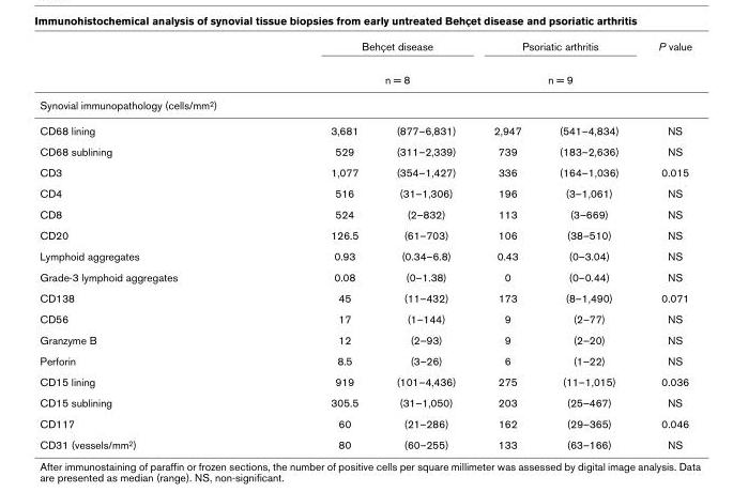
<table><thead><tr><td rowspan="3">Synovial immunopathology (cells/mm2)</td><td rowspan="2" colspan="2">Behçet disease n = 8</td><td rowspan="2" colspan="2">Psoriatic arthritis n = 9</td><td rowspan="3">P value</td></tr><tr></tr><tr><td></td><td></td><td></td><td></td></tr></thead><tbody><tr><td>CD68 lining</td><td>3,681</td><td>(877–6,831)</td><td>2,947</td><td>(541–4,834)</td><td>NS</td></tr><tr><td>CD68 sublining</td><td>529</td><td>(311–2,339)</td><td>739</td><td>(183–2,636)</td><td>NS</td></tr><tr><td>CD3</td><td>1,077</td><td>(354–1,427)</td><td>336</td><td>(164–1,036)</td><td>0.015</td></tr><tr><td>CD4</td><td>516</td><td>(31–1,306)</td><td>196</td><td>(3–1,061)</td><td>NS</td></tr><tr><td>CD8</td><td>524</td><td>(2–832)</td><td>113</td><td>(3–669)</td><td>NS</td></tr><tr><td>CD20</td><td>126.5</td><td>(61–703)</td><td>106</td><td>(38–510)</td><td>NS</td></tr><tr><td>Lymphoid aggregates</td><td>0.93</td><td>(0.34–6.8)</td><td>0.43</td><td>(0–3.04)</td><td>NS</td></tr><tr><td>Grade-3 lymphoid aggregates</td><td>0.08</td><td>(0–1.38)</td><td>0</td><td>(0–0.44)</td><td>NS</td></tr><tr><td>CD138</td><td>45</td><td>(11–432)</td><td>173</td><td>(8–1,490)</td><td>0.071</td></tr><tr><td>CD56</td><td>17</td><td>(1–144)</td><td>9</td><td>(2–77)</td><td>NS</td></tr><tr><td>Granzyme B</td><td>12</td><td>(2–93)</td><td>9</td><td>(2–20)</td><td>NS</td></tr><tr><td>Perforin</td><td>8.5</td><td>(3–26)</td><td>6</td><td>(1–22)</td><td>NS</td></tr><tr><td>CD15 lining</td><td>919</td><td>(101–4,436)</td><td>275</td><td>(11–1,015)</td><td>0.036</td></tr><tr><td>CD15 sublining</td><td>305.5</td><td>(31–1,050)</td><td>203</td><td>(25–467)</td><td>NS</td></tr><tr><td>CD117</td><td>60</td><td>(21–286)</td><td>162</td><td>(29–365)</td><td>0.046</td></tr><tr><td>CD31 (vessels/mm<sup>2</sup>)</td><td>80</td><td>(60–255)</td><td>133</td><td>(63–166)</td><td>NS</td></tr></tbody></table>